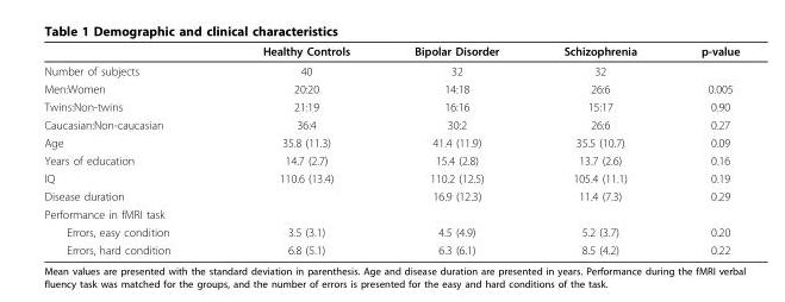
<table><thead><tr><td></td><td>Healthy Controls</td><td>Bipolar Disorder</td><td>Schizophrenia</td><td>p-value</td></tr></thead><tbody><tr><td>Number of subjects</td><td>40</td><td>32</td><td>32</td><td></td></tr><tr><td>Men:Women</td><td>20:20</td><td>14:18</td><td>26:6</td><td>0.005</td></tr><tr><td>Twins:Non-twins</td><td>21:19</td><td>16:16</td><td>15:17</td><td>0.90</td></tr><tr><td>Caucasian:Non-caucasian</td><td>36:4</td><td>30:2</td><td>26:6</td><td>0.27</td></tr><tr><td>Age</td><td>35.8 (11.3)</td><td>41.4 (11.9)</td><td>35.5 (10.7)</td><td>0.09</td></tr><tr><td>Years of education</td><td>14.7 (2.7)</td><td>15.4 (2.8)</td><td>13.7 (2.6)</td><td>0.16</td></tr><tr><td>IQ</td><td>110.6 (13.4)</td><td>110.2 (12.5)</td><td>105.4 (11.1)</td><td>0.19</td></tr><tr><td>Disease duration</td><td></td><td>16.9 (12.3)</td><td>11.4 (7.3)</td><td>0.29</td></tr><tr><td colspan="5">Performance in fMRI task</td></tr><tr><td>Errors, easy condition</td><td>3.5 (3.1)</td><td>4.5 (4.9)</td><td>5.2 (3.7)</td><td>0.20</td></tr><tr><td>Errors, hard condition</td><td>6.8 (5.1)</td><td>6.3 (6.1)</td><td>8.5 (4.2)</td><td>0.22</td></tr></tbody></table>